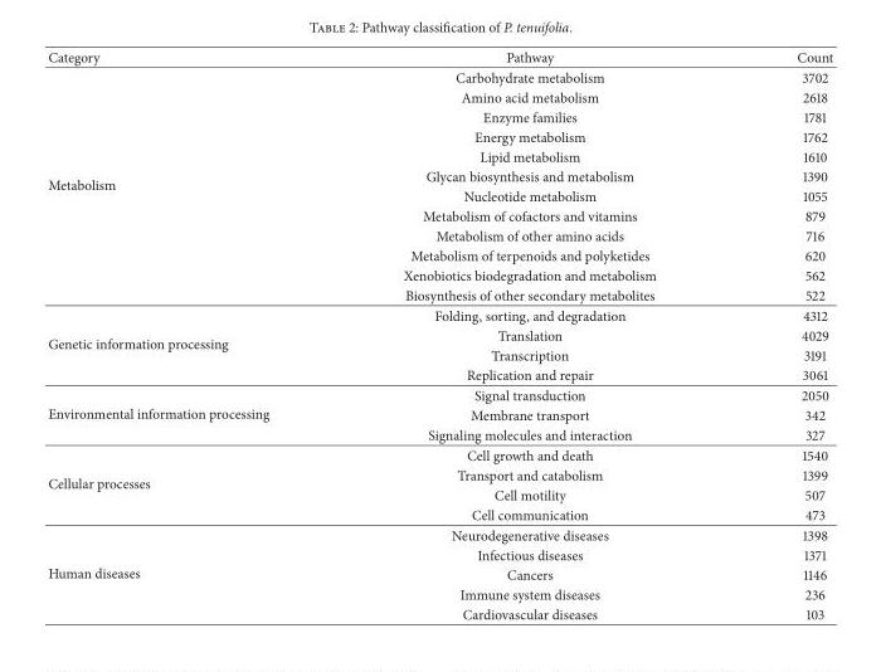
<table><thead><tr><td>Category</td><td>Pathway</td><td>Count</td></tr></thead><tbody><tr><td rowspan="12">Metabolism</td><td>Carbohydrate metabolism</td><td>3702</td></tr><tr><td>Amino acid metabolism</td><td>2618</td></tr><tr><td>Enzyme families</td><td>1781</td></tr><tr><td>Energy metabolism</td><td>1762</td></tr><tr><td>Lipid metabolism</td><td>1610</td></tr><tr><td>Glycan biosynthesis and metabolism</td><td>1390</td></tr><tr><td>Nucleotide metabolism</td><td>1055</td></tr><tr><td>Metabolism of cofactors and vitamins</td><td>879</td></tr><tr><td>Metabolism of other amino acids</td><td>716</td></tr><tr><td>Metabolism of terpenoids and polyketides</td><td>620</td></tr><tr><td>Xenobiotics biodegradation and metabolism</td><td>562</td></tr><tr><td>Biosynthesis of other secondary metabolites</td><td>522</td></tr><tr><td rowspan="4">Genetic information processing</td><td>Folding, sorting, and degradation</td><td>4312</td></tr><tr><td>Translation</td><td>4029</td></tr><tr><td>Transcription</td><td>3191</td></tr><tr><td>Replication and repair</td><td>3061</td></tr><tr><td rowspan="3">Environmental information processing</td><td>Signal transduction</td><td>2050</td></tr><tr><td>Membrane transport</td><td>342</td></tr><tr><td>Signaling molecules and interaction</td><td>327</td></tr><tr><td rowspan="4">Cellular processes</td><td>Cell growth and death</td><td>1540</td></tr><tr><td>Transport and catabolism</td><td>1399</td></tr><tr><td>Cell motility</td><td>507</td></tr><tr><td>Cell communication</td><td>473</td></tr><tr><td rowspan="5">Human diseases</td><td>Neurodegenerative diseases</td><td>1398</td></tr><tr><td>Infectious diseases</td><td>1371</td></tr><tr><td>Cancers</td><td>1146</td></tr><tr><td>Immune system diseases</td><td>236</td></tr><tr><td>Cardiovascular diseases</td><td>103</td></tr></tbody></table>